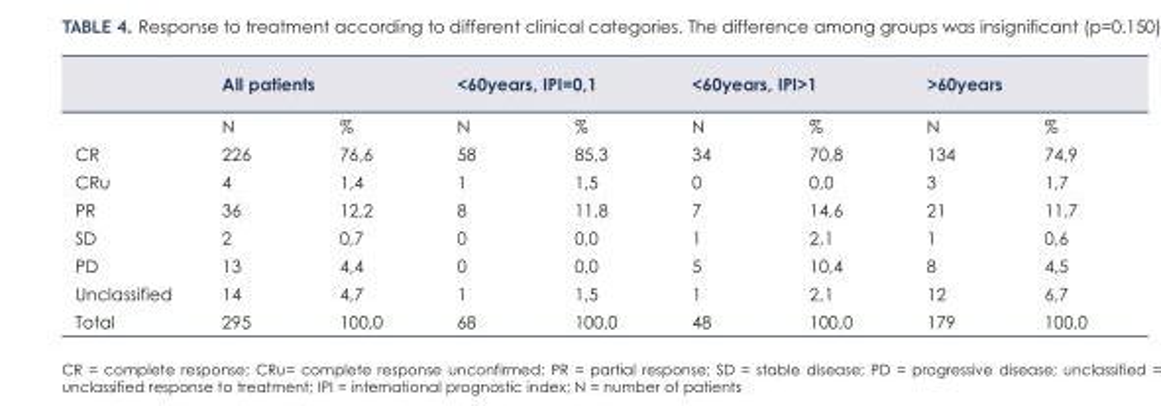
<table><thead><tr><td rowspan="2"></td><td colspan="2">All patients</td><td colspan="2">&lt;60years, IPI=0,1</td><td colspan="2">&lt;60years, IPI&gt;1</td><td colspan="2">&gt;60years</td></tr><tr><td>N</td><td>%</td><td>N</td><td>%</td><td>N</td><td>%</td><td>N</td><td>%</td></tr></thead><tbody><tr><td>CR</td><td>226</td><td>76,6</td><td>58</td><td>85,3</td><td>34</td><td>70,8</td><td>134</td><td>74,9</td></tr><tr><td>CRu</td><td>4</td><td>1,4</td><td>1</td><td>1,5</td><td>0</td><td>0,0</td><td>3</td><td>1,7</td></tr><tr><td>PR</td><td>36</td><td>12,2</td><td>8</td><td>11,8</td><td>7</td><td>14,6</td><td>21</td><td>11,7</td></tr><tr><td>SD</td><td>2</td><td>0,7</td><td>0</td><td>0,0</td><td>1</td><td>2,1</td><td>1</td><td>0,6</td></tr><tr><td>PD</td><td>13</td><td>4,4</td><td>0</td><td>0,0</td><td>5</td><td>10,4</td><td>8</td><td>4,5</td></tr><tr><td>Unclassified</td><td>14</td><td>4,7</td><td>1</td><td>1,5</td><td>1</td><td>2,1</td><td>12</td><td>6,7</td></tr><tr><td>Total</td><td>295</td><td>100,0</td><td>68</td><td>100,0</td><td>48</td><td>100,0</td><td>179</td><td>100,0</td></tr></tbody></table>